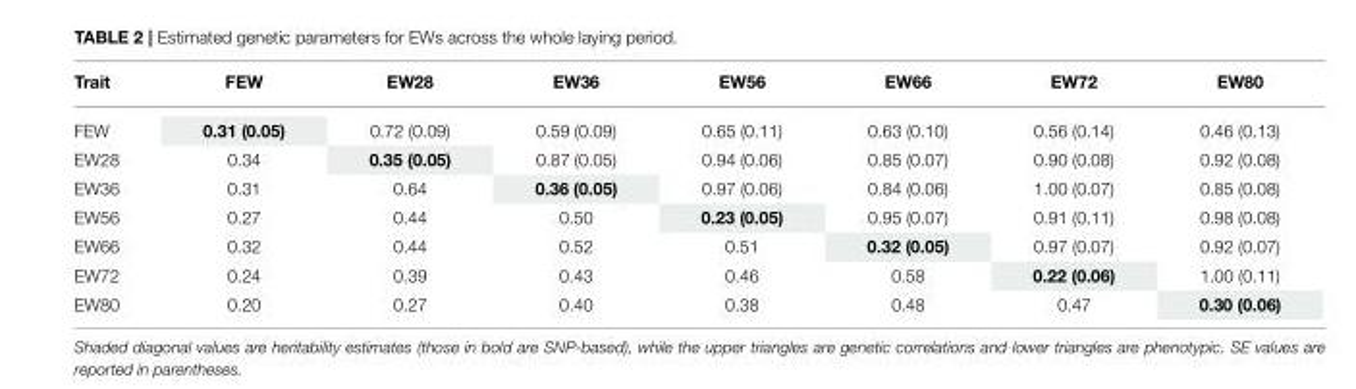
<table><thead><tr><td>Trait</td><td>FEW</td><td>EW28</td><td>EW36</td><td>EW56</td><td>EW66</td><td>EW72</td><td>EW80</td></tr></thead><tbody><tr><td>FEW</td><td>0.31 (0.05)</td><td>0.72 (0.09)</td><td>0.59 (0.09)</td><td>0.65 (0.11)</td><td>0.63 (0.10)</td><td>0.56 (0.14)</td><td>0.46 (0.13)</td></tr><tr><td>EW28</td><td>0.34</td><td>0.35 (0.05)</td><td>0.87 (0.05)</td><td>0.94 (0.06)</td><td>0.85 (0.07)</td><td>0.90 (0.08)</td><td>0.92 (0.08)</td></tr><tr><td>EW36</td><td>0.31</td><td>0.64</td><td>0.36 (0.05)</td><td>0.97 (0.06)</td><td>0.84 (0.06)</td><td>1.00 (0.07)</td><td>0.85 (0.08)</td></tr><tr><td>EW56</td><td>0.27</td><td>0.44</td><td>0.50</td><td>0.23 (0.05)</td><td>0.95 (0.07)</td><td>0.91 (0.11)</td><td>0.98 (0.08)</td></tr><tr><td>EW66</td><td>0.32</td><td>0.44</td><td>0.52</td><td>0.51</td><td>0.32 (0.05)</td><td>0.97 (0.07)</td><td>0.92 (0.07)</td></tr><tr><td>EW72</td><td>0.24</td><td>0.39</td><td>0.43</td><td>0.46</td><td>0.58</td><td>0.22 (0.06)</td><td>1.00 (0.11)</td></tr><tr><td>EW80</td><td>0.20</td><td>0.27</td><td>0.40</td><td>0.38</td><td>0.48</td><td>0.47</td><td>0.30 (0.06)</td></tr></tbody></table>